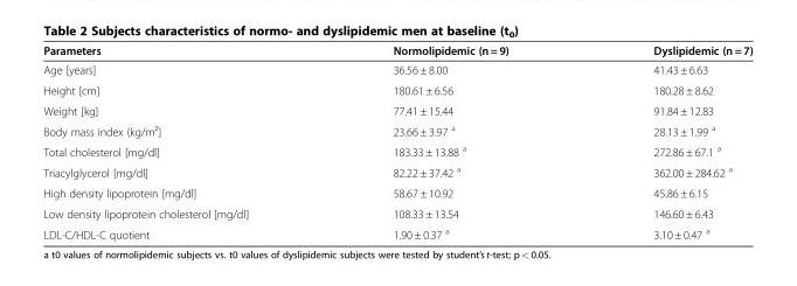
<table><thead><tr><td>Parameters</td><td>Normolipidemic (n = 9)</td><td>Dyslipidemic (n = 7)</td></tr></thead><tbody><tr><td>Age [years]</td><td>36.56 ± 8.00</td><td>41.43 ± 6.63</td></tr><tr><td>Height [cm]</td><td>180.61 ± 6.56</td><td>180.28 ± 8.62</td></tr><tr><td>Weight [kg]</td><td>77.41 ± 15.44</td><td>91.84 ± 12.83</td></tr><tr><td>Body mass index (kg/m²]</td><td>23.66 ± 3.97 <sup>a</sup></td><td>28.13 ± 1.99 <sup>a</sup></td></tr><tr><td>Total cholesterol [mg/dl]</td><td>183.33 ± 13.88 <sup>a</sup></td><td>272.86 ± 67.1 <sup>a</sup></td></tr><tr><td>Triacylglycerol [mg/dl]</td><td>82.22 ± 37.42 <sup>a</sup></td><td>362.00 ± 284.62 <sup>a</sup></td></tr><tr><td>High density lipoprotein [mg/dl]</td><td>58.67 ± 10.92</td><td>45.86 ± 6.15</td></tr><tr><td>Low density lipoprotein cholesterol [mg/dl]</td><td>108.33 ± 13.54</td><td>146.60 ± 6.43</td></tr><tr><td>LDL-C/HDL-C quotient</td><td>1.90 ± 0.37 <sup>a</sup></td><td>3.10 ± 0.47 <sup>a</sup></td></tr></tbody></table>